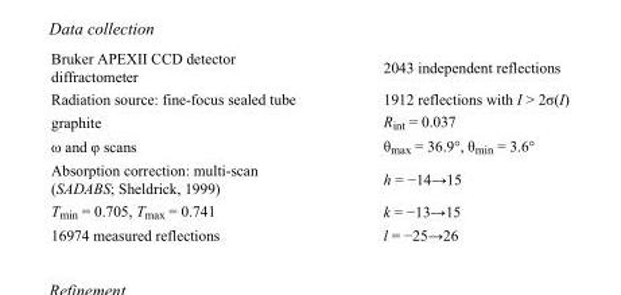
<table><tbody><tr><td>Bruker APEXII CCD detector diffractometer</td><td>2043 independent reflections</td></tr><tr><td>Radiation source: fine-focus sealed tube</td><td>1912 reflections with I &gt; 2σ(I)</td></tr><tr><td>graphite</td><td>R<sub>int</sub> = 0.037</td></tr><tr><td>ω and φ scans</td><td>θ<sub>max</sub> = 36.9°, θ<sub>min</sub> = 3.6°</td></tr><tr><td>Absorption correction: multi-scan (SADABS; Sheldrick, 1999)</td><td>h = −14→15</td></tr><tr><td>T<sub>min</sub> = 0.705, T<sub>max</sub> = 0.741</td><td>k = −13→15</td></tr><tr><td>16974 measured reflections</td><td>l = −25→26</td></tr></tbody></table>